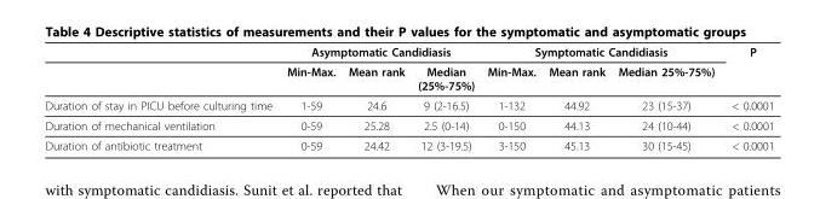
<table><thead><tr><td rowspan="2"></td><td colspan="3">Asymptomatic Candidiasis</td><td colspan="3">Symptomatic Candidiasis</td><td rowspan="2">P</td></tr><tr><td>Min-Max.</td><td>Mean rank</td><td>Median (25%-75%)</td><td>Min-Max.</td><td>Mean rank</td><td>Median 25%-75%)</td></tr></thead><tbody><tr><td>Duration of stay in PICU before culturing time</td><td>1-59</td><td>24.6</td><td>9 (2-16.5)</td><td>1-132</td><td>44.92</td><td>23 (15-37)</td><td>&lt; 0.0001</td></tr><tr><td>Duration of mechanical ventilation</td><td>0-59</td><td>25.28</td><td>2.5 (0-14)</td><td>0-150</td><td>44.13</td><td>24 (10-44)</td><td>&lt; 0.0001</td></tr><tr><td>Duration of antibiotic treatment</td><td>0-59</td><td>24.42</td><td>12 (3-19.5)</td><td>3-150</td><td>45.13</td><td>30 (15-45)</td><td>&lt; 0.0001</td></tr></tbody></table>